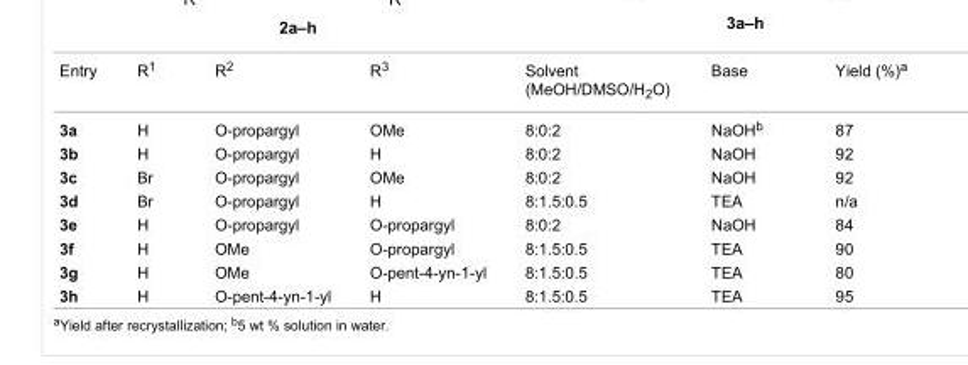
<table><tbody><tr><td>Entry</td><td>R<sup>1</sup></td><td>R<sup>2</sup></td><td>R<sup>3</sup></td><td>Solvent (MeOH/DMSO/H<sub>2</sub>O)</td><td>Base</td><td>Yield (%)<sup>a</sup></td></tr><tr><td>3a</td><td>H</td><td>O-propargyl</td><td>OMe</td><td>8:0:2</td><td>NaOH<sup>b</sup></td><td>87</td></tr><tr><td>3b</td><td>H</td><td>O-propargyl</td><td>H</td><td>8:0:2</td><td>NaOH</td><td>92</td></tr><tr><td>3c</td><td>Br</td><td>O-propargyl</td><td>OMe</td><td>8:0:2</td><td>NaOH</td><td>92</td></tr><tr><td>3d</td><td>Br</td><td>O-propargyl</td><td>H</td><td>8:1.5:0.5</td><td>TEA</td><td>n/a</td></tr><tr><td>3e</td><td>H</td><td>O-propargyl</td><td>O-propargyl</td><td>8:0:2</td><td>NaOH</td><td>84</td></tr><tr><td>3f</td><td>H</td><td>OMe</td><td>O-propargyl</td><td>8:1.5:0.5</td><td>TEA</td><td>90</td></tr><tr><td>3g</td><td>H</td><td>OMe</td><td>O-pent-4-yn-1-yl</td><td>8:1.5:0.5</td><td>TEA</td><td>80</td></tr><tr><td>3h</td><td>H</td><td>O-pent-4-yn-1-yl</td><td>H</td><td>8:1.5:0.5</td><td>TEA</td><td>95</td></tr></tbody></table>